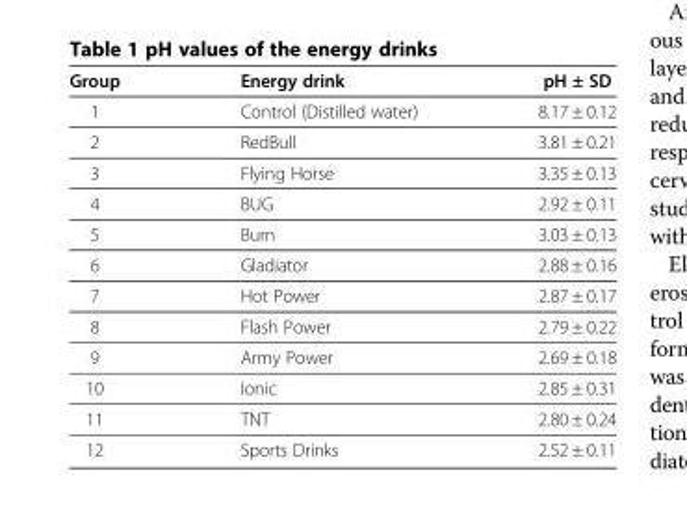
<table><thead><tr><td>Group</td><td>Energy drink</td><td>pH ± SD</td></tr></thead><tbody><tr><td>1</td><td>Control (Distilled water)</td><td>8.17 ± 0.12</td></tr><tr><td>2</td><td>RedBull</td><td>3.81 ± 0.21</td></tr><tr><td>3</td><td>Flying Horse</td><td>3.35 ± 0.13</td></tr><tr><td>4</td><td>BUG</td><td>2.92 ± 0.11</td></tr><tr><td>5</td><td>Burn</td><td>3.03 ± 0.13</td></tr><tr><td>6</td><td>Gladiator</td><td>2.88 ± 0.16</td></tr><tr><td>7</td><td>Hot Power</td><td>2.87 ± 0.17</td></tr><tr><td>8</td><td>Flash Power</td><td>2.79 ± 0.22</td></tr><tr><td>9</td><td>Army Power</td><td>2.69 ± 0.18</td></tr><tr><td>10</td><td>Ionic</td><td>2.85 ± 0.31</td></tr><tr><td>11</td><td>TNT</td><td>2.80 ± 0.24</td></tr><tr><td>12</td><td>Sports Drinks</td><td>2.52 ± 0.11</td></tr></tbody></table>